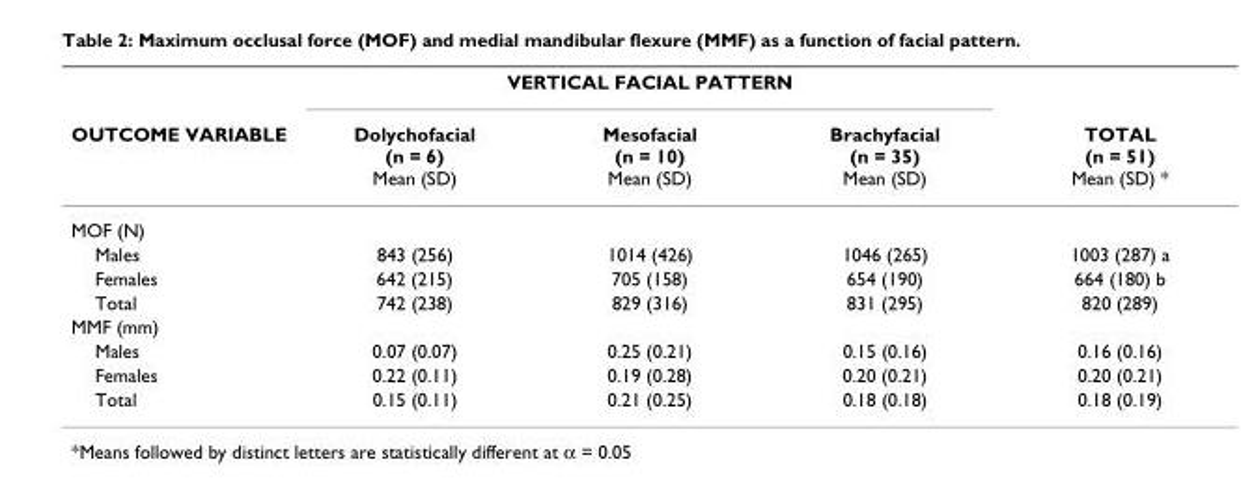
<table><thead><tr><td rowspan="2">OUTCOME VARIABLE</td><td colspan="3">VERTICAL FACIAL PATTERN</td><td rowspan="2">TOTAL (n = 51) Mean (SD) *</td></tr><tr><td>Dolychofacial (n = 6) Mean (SD)</td><td>Mesofacial (n = 10) Mean (SD)</td><td>Brachyfacial (n = 35) Mean (SD)</td></tr></thead><tbody><tr><td colspan="5">MOF (N)</td></tr><tr><td>Males</td><td>843 (256)</td><td>1014 (426)</td><td>1046 (265)</td><td>1003 (287) a</td></tr><tr><td>Females</td><td>642 (215)</td><td>705 (158)</td><td>654 (190)</td><td>664 (180) b</td></tr><tr><td>Total</td><td>742 (238)</td><td>829 (316)</td><td>831 (295)</td><td>820 (289)</td></tr><tr><td colspan="5">MMF (mm)</td></tr><tr><td>Males</td><td>0.07 (0.07)</td><td>0.25 (0.21)</td><td>0.15 (0.16)</td><td>0.16 (0.16)</td></tr><tr><td>Females</td><td>0.22 (0.11)</td><td>0.19 (0.28)</td><td>0.20 (0.21)</td><td>0.20 (0.21)</td></tr><tr><td>Total</td><td>0.15 (0.11)</td><td>0.21 (0.25)</td><td>0.18 (0.18)</td><td>0.18 (0.19)</td></tr></tbody></table>